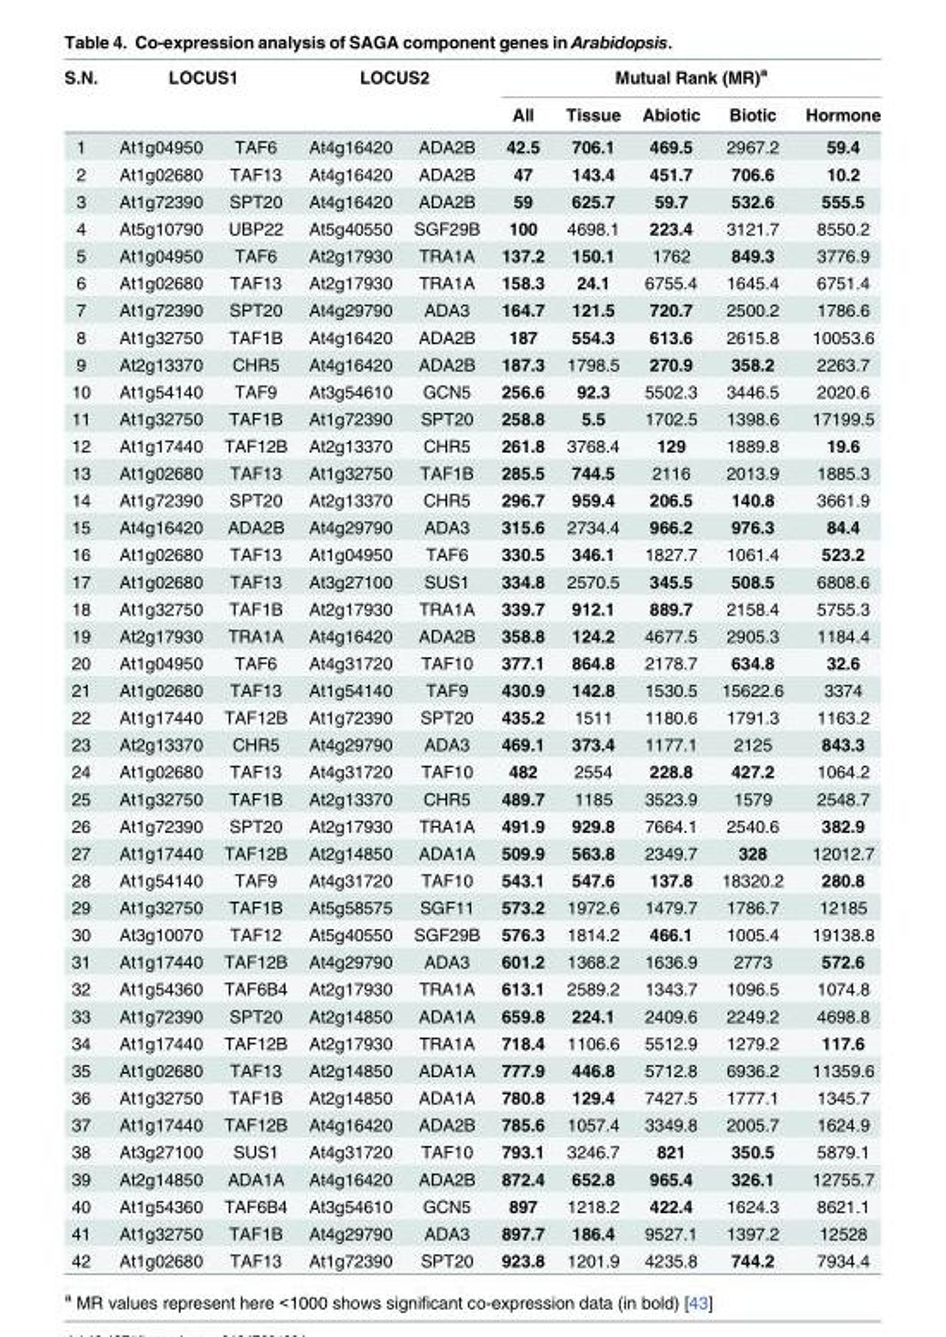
<table><thead><tr><td rowspan="2">S.N.</td><td colspan="2">LOCUS1</td><td colspan="2">LOCUS2</td><td colspan="5">Mutual Rank (MR)<sup>a</sup></td></tr><tr><td></td><td></td><td></td><td></td><td>All</td><td>Tissue</td><td>Abiotic</td><td>Biotic</td><td>Hormone</td></tr></thead><tbody><tr><td>1</td><td>At1g04950</td><td>TAF6</td><td>At4g16420</td><td>ADA2B</td><td>42.5</td><td>706.1</td><td>469.5</td><td>2967.2</td><td>59.4</td></tr><tr><td>2</td><td>At1g02680</td><td>TAF13</td><td>At4g16420</td><td>ADA2B</td><td>47</td><td>143.4</td><td>451.7</td><td>706.6</td><td>10.2</td></tr><tr><td>3</td><td>At1g72390</td><td>SPT20</td><td>At4g16420</td><td>ADA2B</td><td>59</td><td>625.7</td><td>59.7</td><td>532.6</td><td>555.5</td></tr><tr><td>4</td><td>At5g10790</td><td>UBP22</td><td>At5g40550</td><td>SGF29B</td><td>100</td><td>4698.1</td><td>223.4</td><td>3121.7</td><td>8550.2</td></tr><tr><td>5</td><td>At1g04950</td><td>TAF6</td><td>At2g17930</td><td>TRA1A</td><td>137.2</td><td>150.1</td><td>1762</td><td>849.3</td><td>3776.9</td></tr><tr><td>6</td><td>At1g02680</td><td>TAF13</td><td>At2g17930</td><td>TRA1A</td><td>158.3</td><td>24.1</td><td>6755.4</td><td>1645.4</td><td>6751.4</td></tr><tr><td>7</td><td>At1g72390</td><td>SPT20</td><td>At4g29790</td><td>ADA3</td><td>164.7</td><td>121.5</td><td>720.7</td><td>2500.2</td><td>1786.6</td></tr><tr><td>8</td><td>At1g32750</td><td>TAF1B</td><td>At4g16420</td><td>ADA2B</td><td>187</td><td>554.3</td><td>613.6</td><td>2615.8</td><td>10053.6</td></tr><tr><td>9</td><td>At2g13370</td><td>CHR5</td><td>At4g16420</td><td>ADA2B</td><td>187.3</td><td>1798.5</td><td>270.9</td><td>358.2</td><td>2263.7</td></tr><tr><td>10</td><td>At1g54140</td><td>TAF9</td><td>At3g54610</td><td>GCN5</td><td>256.6</td><td>92.3</td><td>5502.3</td><td>3446.5</td><td>2020.6</td></tr><tr><td>11</td><td>At1g32750</td><td>TAF1B</td><td>At1g72390</td><td>SPT20</td><td>258.8</td><td>5.5</td><td>1702.5</td><td>1398.6</td><td>17199.5</td></tr><tr><td>12</td><td>At1g17440</td><td>TAF12B</td><td>At2g13370</td><td>CHR5</td><td>261.8</td><td>3768.4</td><td>129</td><td>1889.8</td><td>19.6</td></tr><tr><td>13</td><td>At1g02680</td><td>TAF13</td><td>At1g32750</td><td>TAF1B</td><td>285.5</td><td>744.5</td><td>2116</td><td>2013.9</td><td>1885.3</td></tr><tr><td>14</td><td>At1g72390</td><td>SPT20</td><td>At2g13370</td><td>CHR5</td><td>296.7</td><td>959.4</td><td>206.5</td><td>140.8</td><td>3661.9</td></tr><tr><td>15</td><td>At4g16420</td><td>ADA2B</td><td>At4g29790</td><td>ADA3</td><td>315.6</td><td>2734.4</td><td>966.2</td><td>976.3</td><td>84.4</td></tr><tr><td>16</td><td>At1g02680</td><td>TAF13</td><td>At1g04950</td><td>TAF6</td><td>330.5</td><td>346.1</td><td>1827.7</td><td>1061.4</td><td>523.2</td></tr><tr><td>17</td><td>At1g02680</td><td>TAF13</td><td>At3g27100</td><td>SUS1</td><td>334.8</td><td>2570.5</td><td>345.5</td><td>508.5</td><td>6808.6</td></tr><tr><td>18</td><td>At1g32750</td><td>TAF1B</td><td>At2g17930</td><td>TRA1A</td><td>339.7</td><td>912.1</td><td>889.7</td><td>2158.4</td><td>5755.3</td></tr><tr><td>19</td><td>At2g17930</td><td>TRA1A</td><td>At4g16420</td><td>ADA2B</td><td>358.8</td><td>124.2</td><td>4677.5</td><td>2905.3</td><td>1184.4</td></tr><tr><td>20</td><td>At1g04950</td><td>TAF6</td><td>At4g31720</td><td>TAF10</td><td>377.1</td><td>864.8</td><td>2178.7</td><td>634.8</td><td>32.6</td></tr><tr><td>21</td><td>At1g02680</td><td>TAF13</td><td>At1g54140</td><td>TAF9</td><td>430.9</td><td>142.8</td><td>1530.5</td><td>15622.6</td><td>3374</td></tr><tr><td>22</td><td>At1g17440</td><td>TAF12B</td><td>At1g72390</td><td>SPT20</td><td>435.2</td><td>1511</td><td>1180.6</td><td>1791.3</td><td>1163.2</td></tr><tr><td>23</td><td>At2g13370</td><td>CHR5</td><td>At4g29790</td><td>ADA3</td><td>469.1</td><td>373.4</td><td>1177.1</td><td>2125</td><td>843.3</td></tr><tr><td>24</td><td>At1g02680</td><td>TAF13</td><td>At4g31720</td><td>TAF10</td><td>482</td><td>2554</td><td>228.8</td><td>427.2</td><td>1064.2</td></tr><tr><td>25</td><td>At1g32750</td><td>TAF1B</td><td>At2g13370</td><td>CHR5</td><td>489.7</td><td>1185</td><td>3523.9</td><td>1579</td><td>2548.7</td></tr><tr><td>26</td><td>At1g72390</td><td>SPT20</td><td>At2g17930</td><td>TRA1A</td><td>491.9</td><td>929.8</td><td>7664.1</td><td>2540.6</td><td>382.9</td></tr><tr><td>27</td><td>At1g17440</td><td>TAF12B</td><td>At2g14850</td><td>ADA1A</td><td>509.9</td><td>563.8</td><td>2349.7</td><td>328</td><td>12012.7</td></tr><tr><td>28</td><td>At1g54140</td><td>TAF9</td><td>At4g31720</td><td>TAF10</td><td>543.1</td><td>547.6</td><td>137.8</td><td>18320.2</td><td>280.8</td></tr><tr><td>29</td><td>At1g32750</td><td>TAF1B</td><td>At5g58575</td><td>SGF11</td><td>573.2</td><td>1972.6</td><td>1479.7</td><td>1786.7</td><td>12185</td></tr><tr><td>30</td><td>At3g10070</td><td>TAF12</td><td>At5g40550</td><td>SGF29B</td><td>576.3</td><td>1814.2</td><td>466.1</td><td>1005.4</td><td>19138.8</td></tr><tr><td>31</td><td>At1g17440</td><td>TAF12B</td><td>At4g29790</td><td>ADA3</td><td>601.2</td><td>1368.2</td><td>1636.9</td><td>2773</td><td>572.6</td></tr><tr><td>32</td><td>At1g54360</td><td>TAF6B4</td><td>At2g17930</td><td>TRA1A</td><td>613.1</td><td>2589.2</td><td>1343.7</td><td>1096.5</td><td>1074.8</td></tr><tr><td>33</td><td>At1g72390</td><td>SPT20</td><td>At2g14850</td><td>ADA1A</td><td>659.8</td><td>224.1</td><td>2409.6</td><td>2249.2</td><td>4698.8</td></tr><tr><td>34</td><td>At1g17440</td><td>TAF12B</td><td>At2g17930</td><td>TRA1A</td><td>718.4</td><td>1106.6</td><td>5512.9</td><td>1279.2</td><td>117.6</td></tr><tr><td>35</td><td>At1g02680</td><td>TAF13</td><td>At2g14850</td><td>ADA1A</td><td>777.9</td><td>446.8</td><td>5712.8</td><td>6936.2</td><td>11359.6</td></tr><tr><td>36</td><td>At1g32750</td><td>TAF1B</td><td>At2g14850</td><td>ADA1A</td><td>780.8</td><td>129.4</td><td>7427.5</td><td>1777.1</td><td>1345.7</td></tr><tr><td>37</td><td>At1g17440</td><td>TAF12B</td><td>At4g16420</td><td>ADA2B</td><td>785.6</td><td>1057.4</td><td>3349.8</td><td>2005.7</td><td>1624.9</td></tr><tr><td>38</td><td>At3g27100</td><td>SUS1</td><td>At4g31720</td><td>TAF10</td><td>793.1</td><td>3246.7</td><td>821</td><td>350.5</td><td>5879.1</td></tr><tr><td>39</td><td>At2g14850</td><td>ADA1A</td><td>At4g16420</td><td>ADA2B</td><td>872.4</td><td>652.8</td><td>965.4</td><td>326.1</td><td>12755.7</td></tr><tr><td>40</td><td>At1g54360</td><td>TAF6B4</td><td>At3g54610</td><td>GCN5</td><td>897</td><td>1218.2</td><td>422.4</td><td>1624.3</td><td>8621.1</td></tr><tr><td>41</td><td>At1g32750</td><td>TAF1B</td><td>At4g29790</td><td>ADA3</td><td>897.7</td><td>186.4</td><td>9527.1</td><td>1397.2</td><td>12528</td></tr><tr><td>42</td><td>At1g02680</td><td>TAF13</td><td>At1g72390</td><td>SPT20</td><td>923.8</td><td>1201.9</td><td>4235.8</td><td>744.2</td><td>7934.4</td></tr></tbody></table>